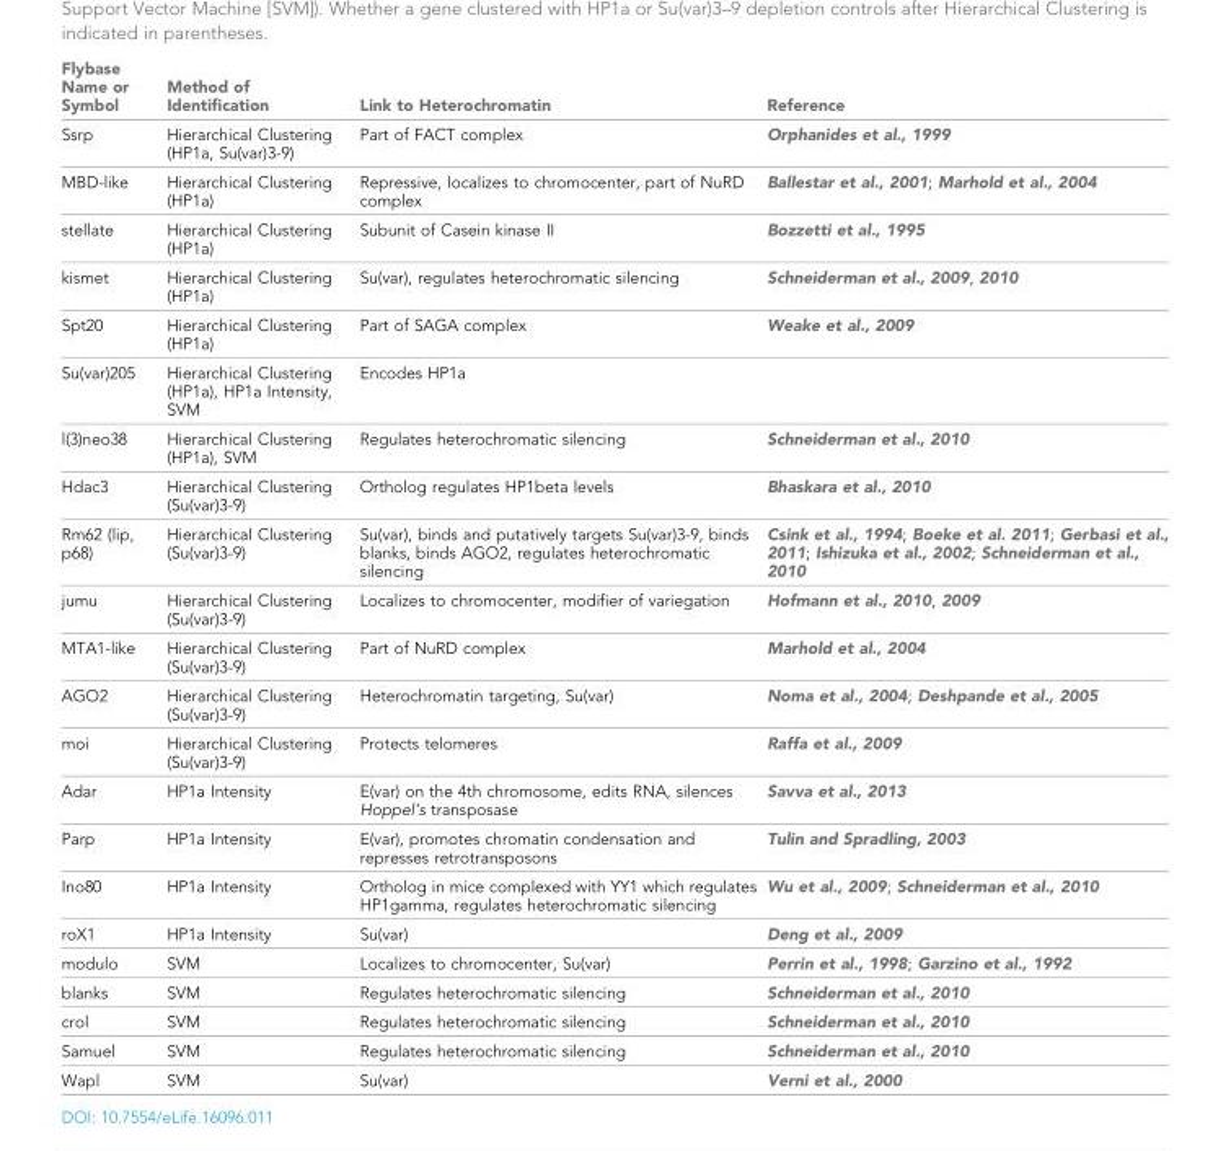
<table><thead><tr><td>Flybase Name or Symbol</td><td>Method of Identification</td><td>Link to Heterochromatin</td><td>Reference</td></tr></thead><tbody><tr><td>Ssrp</td><td>Hierarchical Clustering (HP1a, Su(var)3-9)</td><td>Part of FACT complex</td><td>Orphanides et al., 1999</td></tr><tr><td>MBD-like</td><td>Hierarchical Clustering (HP1a)</td><td>Repressive, localizes to chromocenter, part of NuRD complex</td><td>Ballestar et al., 2001; Marhold et al., 2004</td></tr><tr><td>stellate</td><td>Hierarchical Clustering (HP1a)</td><td>Subunit of Casein kinase II</td><td>Bozzetti et al., 1995</td></tr><tr><td>kismet</td><td>Hierarchical Clustering (HP1a)</td><td>Su(var), regulates heterochromatic silencing</td><td>Schneiderman et al., 2009, 2010</td></tr><tr><td>Spt20</td><td>Hierarchical Clustering (HP1a)</td><td>Part of SAGA complex</td><td>Weake et al., 2009</td></tr><tr><td>Su(var)205</td><td>Hierarchical Clustering (HP1a), HP1a Intensity, SVM</td><td>Encodes HP1a</td><td></td></tr><tr><td>l(3)neo38</td><td>Hierarchical Clustering (HP1a), SVM</td><td>Regulates heterochromatic silencing</td><td>Schneiderman et al., 2010</td></tr><tr><td>Hdac3</td><td>Hierarchical Clustering (Su(var)3-9)</td><td>Ortholog regulates HP1beta levels</td><td>Bhaskara et al., 2010</td></tr><tr><td>Rm62 (lip, p68)</td><td>Hierarchical Clustering (Su(var)3-9)</td><td>Su(var), binds and putatively targets Su(var)3-9, binds blanks, binds AGO2, regulates heterochromatic silencing</td><td>Csink et al., 1994; Boeke et al. 2011; Gerbasi et al., 2011; Ishizuka et al., 2002; Schneiderman et al., 2010</td></tr><tr><td>jumu</td><td>Hierarchical Clustering (Su(var)3-9)</td><td>Localizes to chromocenter, modifier of variegation</td><td>Hofmann et al., 2010, 2009</td></tr><tr><td>MTA1-like</td><td>Hierarchical Clustering (Su(var)3-9)</td><td>Part of NuRD complex</td><td>Marhold et al., 2004</td></tr><tr><td>AGO2</td><td>Hierarchical Clustering (Su(var)3-9)</td><td>Heterochromatin targeting, Su(var)</td><td>Noma et al., 2004; Deshpande et al., 2005</td></tr><tr><td>moi</td><td>Hierarchical Clustering (Su(var)3-9)</td><td>Protects telomeres</td><td>Raffa et al., 2009</td></tr><tr><td>Adar</td><td>HP1a Intensity</td><td>E(var) on the 4th chromosome, edits RNA, silences Hoppel’s transposase</td><td>Savva et al., 2013</td></tr><tr><td>Parp</td><td>HP1a Intensity</td><td>E(var), promotes chromatin condensation and represses retrotransposons</td><td>Tulin and Spradling, 2003</td></tr><tr><td>Ino80</td><td>HP1a Intensity</td><td>Ortholog in mice complexed with YY1 which regulates HP1gamma, regulates heterochromatic silencing</td><td>Wu et al., 2009; Schneiderman et al., 2010</td></tr><tr><td>roX1</td><td>HP1a Intensity</td><td>Su(var)</td><td>Deng et al., 2009</td></tr><tr><td>modulo</td><td>SVM</td><td>Localizes to chromocenter, Su(var)</td><td>Perrin et al., 1998; Garzino et al., 1992</td></tr><tr><td>blanks</td><td>SVM</td><td>Regulates heterochromatic silencing</td><td>Schneiderman et al., 2010</td></tr><tr><td>crol</td><td>SVM</td><td>Regulates heterochromatic silencing</td><td>Schneiderman et al., 2010</td></tr><tr><td>Samuel</td><td>SVM</td><td>Regulates heterochromatic silencing</td><td>Schneiderman et al., 2010</td></tr><tr><td>Wapl</td><td>SVM</td><td>Su(var)</td><td>Verni et al., 2000</td></tr></tbody></table>